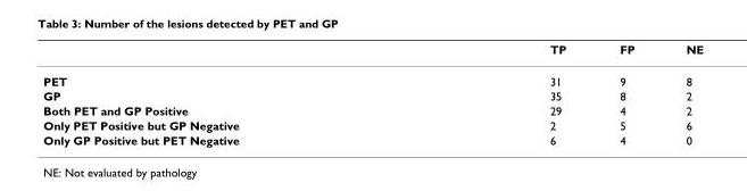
<table><thead><tr><td></td><td>TP</td><td>FP</td><td>NE</td></tr></thead><tbody><tr><td>PET</td><td>31</td><td>9</td><td>8</td></tr><tr><td>GP</td><td>35</td><td>8</td><td>2</td></tr><tr><td>Both PET and GP Positive</td><td>29</td><td>4</td><td>2</td></tr><tr><td>Only PET Positive but GP Negative</td><td>2</td><td>5</td><td>6</td></tr><tr><td>Only GP Positive but PET Negative</td><td>6</td><td>4</td><td>0</td></tr></tbody></table>